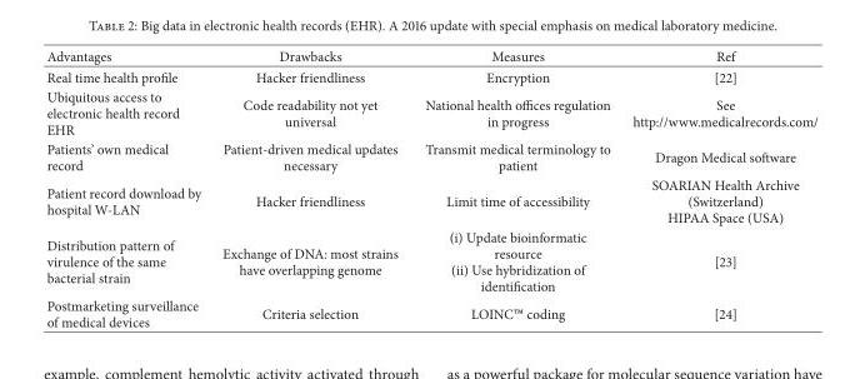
<table><thead><tr><td>Advantages</td><td>Drawbacks</td><td>Measures</td><td>Ref</td></tr></thead><tbody><tr><td>Real time health profile</td><td>Hacker friendliness</td><td>Encryption</td><td>[22]</td></tr><tr><td>Ubiquitous access to electronic health record EHR</td><td>Code readability not yet universal</td><td>National health offices regulation in progress</td><td>See http://www.medicalrecords.com/</td></tr><tr><td>Patients’ own medical record</td><td>Patient-driven medical updates necessary</td><td>Transmit medical terminology to patient</td><td>Dragon Medical software</td></tr><tr><td>Patient record download by hospital W-LAN</td><td>Hacker friendliness</td><td>Limit time of accessibility</td><td>SOARIAN Health Archive (Switzerland) HIPAA Space (USA)</td></tr><tr><td>Distribution pattern of virulence of the same bacterial strain</td><td>Exchange of DNA: most strains have overlapping genome</td><td>(i) Update bioinformatic resource (ii) Use hybridization of identification</td><td>[23]</td></tr><tr><td>Postmarketing surveillance of medical devices</td><td>Criteria selection</td><td>LOINC™ coding</td><td>[24]</td></tr></tbody></table>